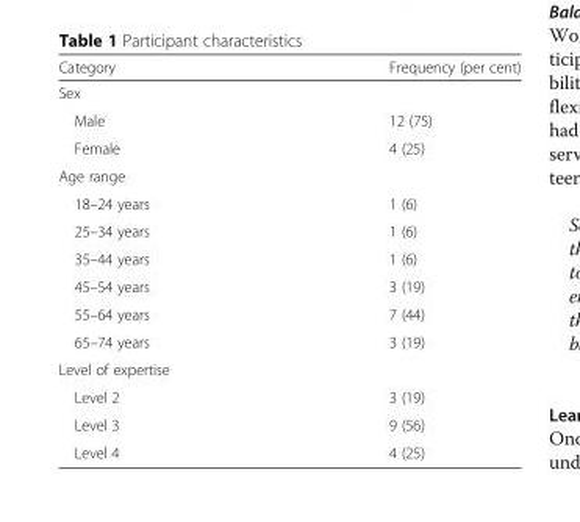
<table><thead><tr><td>Category</td><td>Frequency (per cent)</td></tr></thead><tbody><tr><td colspan="2">Sex</td></tr><tr><td>Male</td><td>12 (75)</td></tr><tr><td>Female</td><td>4 (25)</td></tr><tr><td colspan="2">Age range</td></tr><tr><td>18–24 years</td><td>1 (6)</td></tr><tr><td>25–34 years</td><td>1 (6)</td></tr><tr><td>35–44 years</td><td>1 (6)</td></tr><tr><td>45–54 years</td><td>3 (19)</td></tr><tr><td>55–64 years</td><td>7 (44)</td></tr><tr><td>65–74 years</td><td>3 (19)</td></tr><tr><td colspan="2">Level of expertise</td></tr><tr><td>Level 2</td><td>3 (19)</td></tr><tr><td>Level 3</td><td>9 (56)</td></tr><tr><td>Level 4</td><td>4 (25)</td></tr></tbody></table>